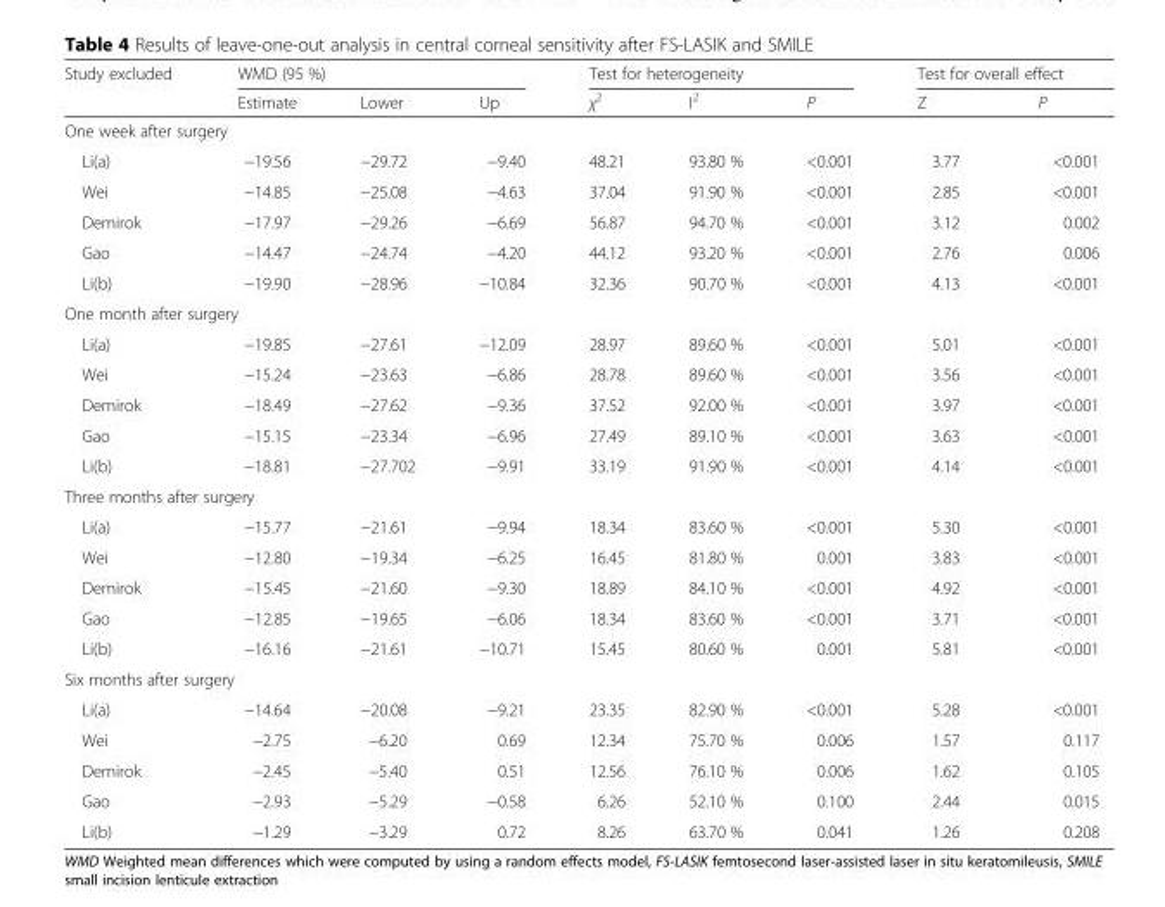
<table><thead><tr><td rowspan="2">Study excluded</td><td colspan="3">WMD (95 %)</td><td colspan="3">Test for heterogeneity</td><td colspan="2">Test for overall effect</td></tr><tr><td>Estimate</td><td>Lower</td><td>Up</td><td>χ<sup>2</sup></td><td>I<sup>2</sup></td><td>P</td><td>Z</td><td>P</td></tr></thead><tbody><tr><td colspan="9">One week after surgery</td></tr><tr><td>Li(a)</td><td>−19.56</td><td>−29.72</td><td>−9.40</td><td>48.21</td><td>93.80 %</td><td>&lt;0.001</td><td>3.77</td><td>&lt;0.001</td></tr><tr><td>Wei</td><td>−14.85</td><td>−25.08</td><td>−4.63</td><td>37.04</td><td>91.90 %</td><td>&lt;0.001</td><td>2.85</td><td>&lt;0.001</td></tr><tr><td>Demirok</td><td>−17.97</td><td>−29.26</td><td>−6.69</td><td>56.87</td><td>94.70 %</td><td>&lt;0.001</td><td>3.12</td><td>0.002</td></tr><tr><td>Gao</td><td>−14.47</td><td>−24.74</td><td>−4.20</td><td>44.12</td><td>93.20 %</td><td>&lt;0.001</td><td>2.76</td><td>0.006</td></tr><tr><td>Li(b)</td><td>−19.90</td><td>−28.96</td><td>−10.84</td><td>32.36</td><td>90.70 %</td><td>&lt;0.001</td><td>4.13</td><td>&lt;0.001</td></tr><tr><td colspan="9">One month after surgery</td></tr><tr><td>Li(a)</td><td>−19.85</td><td>−27.61</td><td>−12.09</td><td>28.97</td><td>89.60 %</td><td>&lt;0.001</td><td>5.01</td><td>&lt;0.001</td></tr><tr><td>Wei</td><td>−15.24</td><td>−23.63</td><td>−6.86</td><td>28.78</td><td>89.60 %</td><td>&lt;0.001</td><td>3.56</td><td>&lt;0.001</td></tr><tr><td>Demirok</td><td>−18.49</td><td>−27.62</td><td>−9.36</td><td>37.52</td><td>92.00 %</td><td>&lt;0.001</td><td>3.97</td><td>&lt;0.001</td></tr><tr><td>Gao</td><td>−15.15</td><td>−23.34</td><td>−6.96</td><td>27.49</td><td>89.10 %</td><td>&lt;0.001</td><td>3.63</td><td>&lt;0.001</td></tr><tr><td>Li(b)</td><td>−18.81</td><td>−27.702</td><td>−9.91</td><td>33.19</td><td>91.90 %</td><td>&lt;0.001</td><td>4.14</td><td>&lt;0.001</td></tr><tr><td colspan="9">Three months after surgery</td></tr><tr><td>Li(a)</td><td>−15.77</td><td>−21.61</td><td>−9.94</td><td>18.34</td><td>83.60 %</td><td>&lt;0.001</td><td>5.30</td><td>&lt;0.001</td></tr><tr><td>Wei</td><td>−12.80</td><td>−19.34</td><td>−6.25</td><td>16.45</td><td>81.80 %</td><td>0.001</td><td>3.83</td><td>&lt;0.001</td></tr><tr><td>Demirok</td><td>−15.45</td><td>−21.60</td><td>−9.30</td><td>18.89</td><td>84.10 %</td><td>&lt;0.001</td><td>4.92</td><td>&lt;0.001</td></tr><tr><td>Gao</td><td>−12.85</td><td>−19.65</td><td>−6.06</td><td>18.34</td><td>83.60 %</td><td>&lt;0.001</td><td>3.71</td><td>&lt;0.001</td></tr><tr><td>Li(b)</td><td>−16.16</td><td>−21.61</td><td>−10.71</td><td>15.45</td><td>80.60 %</td><td>0.001</td><td>5.81</td><td>&lt;0.001</td></tr><tr><td colspan="9">Six months after surgery</td></tr><tr><td>Li(a)</td><td>−14.64</td><td>−20.08</td><td>−9.21</td><td>23.35</td><td>82.90 %</td><td>&lt;0.001</td><td>5.28</td><td>&lt;0.001</td></tr><tr><td>Wei</td><td>−2.75</td><td>−6.20</td><td>0.69</td><td>12.34</td><td>75.70 %</td><td>0.006</td><td>1.57</td><td>0.117</td></tr><tr><td>Demirok</td><td>−2.45</td><td>−5.40</td><td>0.51</td><td>12.56</td><td>76.10 %</td><td>0.006</td><td>1.62</td><td>0.105</td></tr><tr><td>Gao</td><td>−2.93</td><td>−5.29</td><td>−0.58</td><td>6.26</td><td>52.10 %</td><td>0.100</td><td>2.44</td><td>0.015</td></tr><tr><td>Li(b)</td><td>−1.29</td><td>−3.29</td><td>0.72</td><td>8.26</td><td>63.70 %</td><td>0.041</td><td>1.26</td><td>0.208</td></tr></tbody></table>